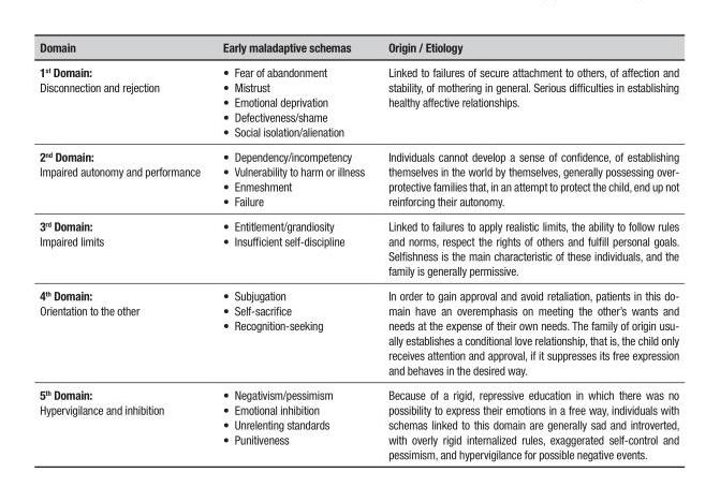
<table><thead><tr><td>Domain</td><td>Early maladaptive schemas</td><td>Origin / Etiology</td></tr></thead><tbody><tr><td>1<sup>st</sup> Domain: Disconnection and rejection</td><td>• Fear of abandonment • Mistrust • Emotional deprivation • Defectiveness/shame • Social isolation/alienation</td><td>Linked to failures of secure attachment to others, of affection and stability, of mothering in general. Serious difficulties in establishing healthy affective relationships.</td></tr><tr><td>2<sup>nd</sup> Domain: Impaired autonomy and performance</td><td>• Dependency/incompetency • Vulnerability to harm or illness • Enmeshment • Failure</td><td>Individuals cannot develop a sense of confidence, of establishing themselves in the world by themselves, generally possessing over- protective families that, in an attempt to protect the child, end up not reinforcing their autonomy.</td></tr><tr><td>3<sup>rd</sup> Domain: Impaired limits</td><td>• Entitlement/grandiosity • Insufficient self-discipline</td><td>Linked to failures to apply realistic limits, the ability to follow rules and norms, respect the rights of others and fulfill personal goals. Selfishness is the main characteristic of these individuals, and the family is generally permissive.</td></tr><tr><td>4<sup>th</sup> Domain: Orientation to the other</td><td>• Subjugation • Self-sacrifice • Recognition-seeking</td><td>In order to gain approval and avoid retaliation, patients in this do- main have an overemphasis on meeting the other’s wants and needs at the expense of their own needs. The family of origin usu- ally establishes a conditional love relationship, that is, the child only receives attention and approval, if it suppresses its free expression and behaves in the desired way.</td></tr><tr><td>5<sup>th</sup> Domain: Hypervigilance and inhibition</td><td>• Negativism/pessimism • Emotional inhibition • Unrelenting standards • Punitiveness</td><td>Because of a rigid, repressive education in which there was no possibility to express their emotions in a free way, individuals with schemas linked to this domain are generally sad and introverted, with overly rigid internalized rules, exaggerated self-control and pessimism, and hypervigilance for possible negative events.</td></tr></tbody></table>